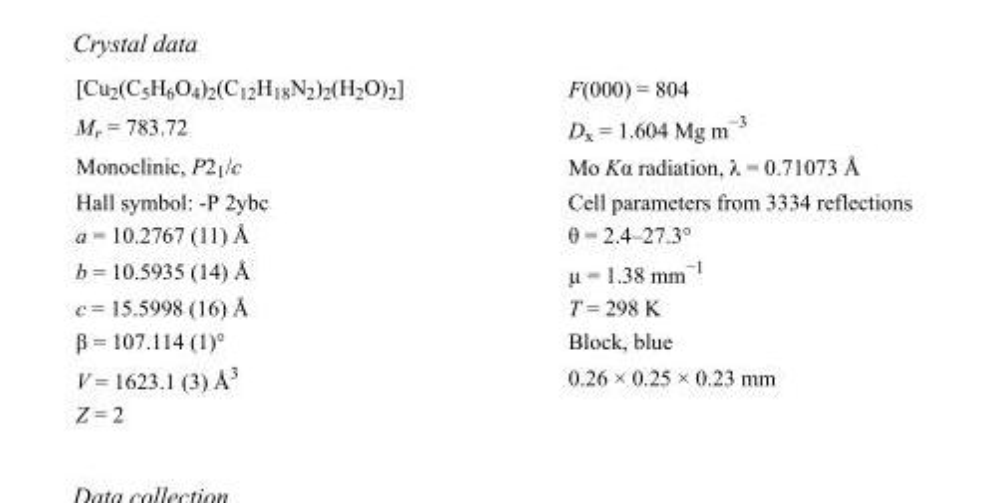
<table><tbody><tr><td>[Cu<sub>2</sub>(C<sub>5</sub>H<sub>6</sub>O<sub>4</sub>)<sub>2</sub>(C<sub>12</sub>H<sub>18</sub>N<sub>2</sub>)<sub>2</sub>(H<sub>2</sub>O)<sub>2</sub>]</td><td>F(000) = 804</td></tr><tr><td>M<sub>r</sub> = 783.72</td><td>D<sub>x</sub> = 1.604 Mg m<sup>−3</sup></td></tr><tr><td>Monoclinic, P2<sub>1</sub>/c</td><td>Mo Kα radiation, λ = 0.71073 Å</td></tr><tr><td>Hall symbol: -P 2ybc</td><td>Cell parameters from 3334 reflections</td></tr><tr><td>a = 10.2767 (11) Å</td><td>θ = 2.4–27.3°</td></tr><tr><td>b = 10.5935 (14) Å</td><td>µ = 1.38 mm<sup>−1</sup></td></tr><tr><td>c = 15.5998 (16) Å</td><td>T = 298 K</td></tr><tr><td>β = 107.114 (1)°</td><td>Block, blue</td></tr><tr><td>V = 1623.1 (3) Å<sup>3</sup></td><td>0.26 × 0.25 × 0.23 mm</td></tr><tr><td>Z = 2</td><td></td></tr></tbody></table>